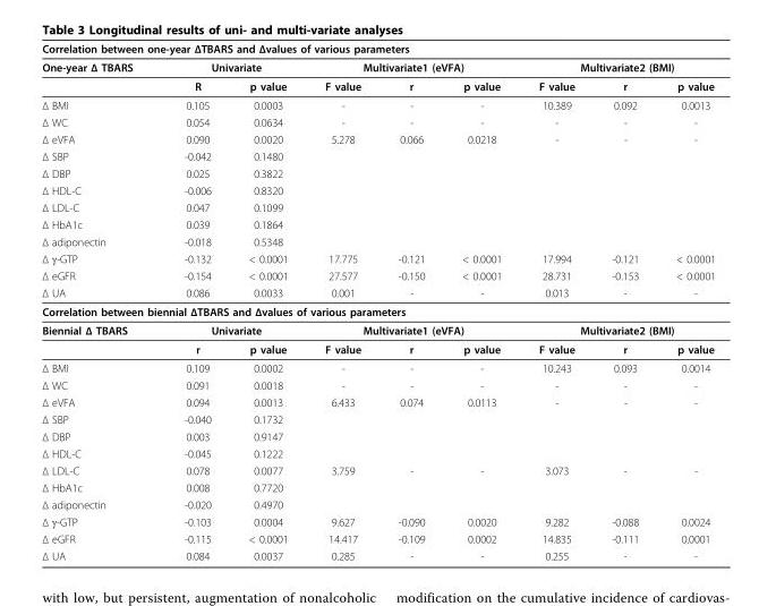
<table><thead><tr><td colspan="9">Correlation between one-year ΔTBARS and Δvalues of various parameters</td></tr><tr><td rowspan="2">One-year Δ TBARS</td><td colspan="2">Univariate</td><td colspan="3">Multivariate1 (eVFA)</td><td colspan="3">Multivariate2 (BMI)</td></tr><tr><td>R</td><td>p value</td><td>F value</td><td>r</td><td>p value</td><td>F value</td><td>r</td><td>p value</td></tr></thead><tbody><tr><td>Δ BMI</td><td>0.105</td><td>0.0003</td><td>-</td><td>-</td><td>-</td><td>10.389</td><td>0.092</td><td>0.0013</td></tr><tr><td>Δ WC</td><td>0.054</td><td>0.0634</td><td>-</td><td>-</td><td>-</td><td>-</td><td>-</td><td>-</td></tr><tr><td>Δ eVFA</td><td>0.090</td><td>0.0020</td><td>5.278</td><td>0.066</td><td>0.0218</td><td>-</td><td>-</td><td>-</td></tr><tr><td>Δ SBP</td><td>-0.042</td><td>0.1480</td><td></td><td></td><td></td><td></td><td></td><td></td></tr><tr><td>Δ DBP</td><td>0.025</td><td>0.3822</td><td></td><td></td><td></td><td></td><td></td><td></td></tr><tr><td>Δ HDL-C</td><td>-0.006</td><td>0.8320</td><td></td><td></td><td></td><td></td><td></td><td></td></tr><tr><td>Δ LDL-C</td><td>0.047</td><td>0.1099</td><td></td><td></td><td></td><td></td><td></td><td></td></tr><tr><td>Δ HbA1c</td><td>0.039</td><td>0.1864</td><td></td><td></td><td></td><td></td><td></td><td></td></tr><tr><td>Δ adiponectin</td><td>-0.018</td><td>0.5348</td><td></td><td></td><td></td><td></td><td></td><td></td></tr><tr><td>Δ γ-GTP</td><td>-0.132</td><td>&lt; 0.0001</td><td>17.775</td><td>-0.121</td><td>&lt; 0.0001</td><td>17.994</td><td>-0.121</td><td>&lt; 0.0001</td></tr><tr><td>Δ eGFR</td><td>-0.154</td><td>&lt; 0.0001</td><td>27.577</td><td>-0.150</td><td>&lt; 0.0001</td><td>28.731</td><td>-0.153</td><td>&lt; 0.0001</td></tr><tr><td>Δ UA</td><td>0.086</td><td>0.0033</td><td>0.001</td><td>-</td><td>-</td><td>0.013</td><td>-</td><td>-</td></tr><tr><td colspan="9">Correlation between biennial ΔTBARS and Δvalues of various parameters</td></tr><tr><td rowspan="2">Biennial Δ TBARS</td><td colspan="2">Univariate</td><td colspan="3">Multivariate1 (eVFA)</td><td colspan="3">Multivariate2 (BMI)</td></tr><tr><td>r</td><td>p value</td><td>F value</td><td>r</td><td>p value</td><td>F value</td><td>r</td><td>p value</td></tr><tr><td>Δ BMI</td><td>0.109</td><td>0.0002</td><td>-</td><td>-</td><td>-</td><td>10.243</td><td>0.093</td><td>0.0014</td></tr><tr><td>Δ WC</td><td>0.091</td><td>0.0018</td><td>-</td><td>-</td><td>-</td><td>-</td><td>-</td><td>-</td></tr><tr><td>Δ eVFA</td><td>0.094</td><td>0.0013</td><td>6.433</td><td>0.074</td><td>0.0113</td><td>-</td><td>-</td><td>-</td></tr><tr><td>Δ SBP</td><td>-0.040</td><td>0.1732</td><td></td><td></td><td></td><td></td><td></td><td></td></tr><tr><td>Δ DBP</td><td>0.003</td><td>0.9147</td><td></td><td></td><td></td><td></td><td></td><td></td></tr><tr><td>Δ HDL-C</td><td>-0.045</td><td>0.1222</td><td></td><td></td><td></td><td></td><td></td><td></td></tr><tr><td>Δ LDL-C</td><td>0.078</td><td>0.0077</td><td>3.759</td><td>-</td><td>-</td><td>3.073</td><td>-</td><td>-</td></tr><tr><td>Δ HbA1c</td><td>0.008</td><td>0.7720</td><td></td><td></td><td></td><td></td><td></td><td></td></tr><tr><td>Δ adiponectin</td><td>-0.020</td><td>0.4970</td><td></td><td></td><td></td><td></td><td></td><td></td></tr><tr><td>Δ γ-GTP</td><td>-0.103</td><td>0.0004</td><td>9.627</td><td>-0.090</td><td>0.0020</td><td>9.282</td><td>-0.088</td><td>0.0024</td></tr><tr><td>Δ eGFR</td><td>-0.115</td><td>&lt; 0.0001</td><td>14.417</td><td>-0.109</td><td>0.0002</td><td>14.835</td><td>-0.111</td><td>0.0001</td></tr><tr><td>Δ UA</td><td>0.084</td><td>0.0037</td><td>0.285</td><td>-</td><td>-</td><td>0.255</td><td>-</td><td>-</td></tr></tbody></table>